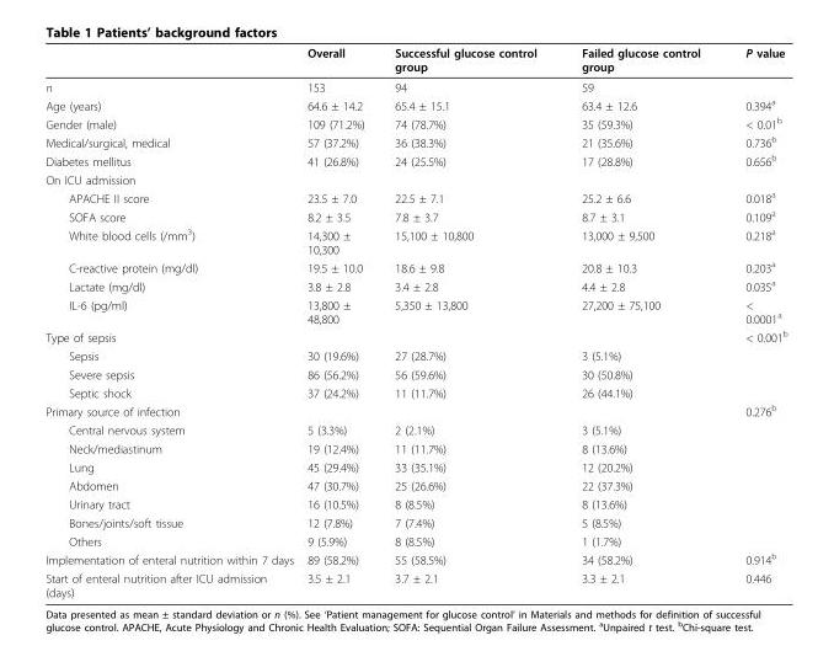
<table><thead><tr><td></td><td>Overall</td><td>Successful glucose control group</td><td>Failed glucose control group</td><td>P value</td></tr></thead><tbody><tr><td>n</td><td>153</td><td>94</td><td>59</td><td></td></tr><tr><td>Age (years)</td><td>64.6 ± 14.2</td><td>65.4 ± 15.1</td><td>63.4 ± 12.6</td><td>0.394<sup>a</sup></td></tr><tr><td>Gender (male)</td><td>109 (71.2%)</td><td>74 (78.7%)</td><td>35 (59.3%)</td><td>&lt; 0.01<sup>b</sup></td></tr><tr><td>Medical/surgical, medical</td><td>57 (37.2%)</td><td>36 (38.3%)</td><td>21 (35.6%)</td><td>0.736<sup>b</sup></td></tr><tr><td>Diabetes mellitus</td><td>41 (26.8%)</td><td>24 (25.5%)</td><td>17 (28.8%)</td><td>0.656<sup>b</sup></td></tr><tr><td colspan="5">On ICU admission</td></tr><tr><td>APACHE II score</td><td>23.5 ± 7.0</td><td>22.5 ± 7.1</td><td>25.2 ± 6.6</td><td>0.018<sup>a</sup></td></tr><tr><td>SOFA score</td><td>8.2 ± 3.5</td><td>7.8 ± 3.7</td><td>8.7 ± 3.1</td><td>0.109<sup>a</sup></td></tr><tr><td>White blood cells (/mm<sup>3</sup>)</td><td>14,300 ± 10,300</td><td>15,100 ± 10,800</td><td>13,000 ± 9,500</td><td>0.218<sup>a</sup></td></tr><tr><td>C-reactive protein (mg/dl)</td><td>19.5 ± 10.0</td><td>18.6 ± 9.8</td><td>20.8 ± 10.3</td><td>0.203<sup>a</sup></td></tr><tr><td>Lactate (mg/dl)</td><td>3.8 ± 2.8</td><td>3.4 ± 2.8</td><td>4.4 ± 2.8</td><td>0.035<sup>a</sup></td></tr><tr><td>IL-6 (pg/ml)</td><td>13,800 ± 48,800</td><td>5,350 ± 13,800</td><td>27,200 ± 75,100</td><td>&lt; 0.0001<sup>a</sup></td></tr><tr><td>Type of sepsis</td><td></td><td></td><td></td><td>&lt; 0.001<sup>b</sup></td></tr><tr><td>Sepsis</td><td>30 (19.6%)</td><td>27 (28.7%)</td><td>3 (5.1%)</td><td></td></tr><tr><td>Severe sepsis</td><td>86 (56.2%)</td><td>56 (59.6%)</td><td>30 (50.8%)</td><td></td></tr><tr><td>Septic shock</td><td>37 (24.2%)</td><td>11 (11.7%)</td><td>26 (44.1%)</td><td></td></tr><tr><td>Primary source of infection</td><td></td><td></td><td></td><td>0.276<sup>b</sup></td></tr><tr><td>Central nervous system</td><td>5 (3.3%)</td><td>2 (2.1%)</td><td>3 (5.1%)</td><td></td></tr><tr><td>Neck/mediastinum</td><td>19 (12.4%)</td><td>11 (11.7%)</td><td>8 (13.6%)</td><td></td></tr><tr><td>Lung</td><td>45 (29.4%)</td><td>33 (35.1%)</td><td>12 (20.2%)</td><td></td></tr><tr><td>Abdomen</td><td>47 (30.7%)</td><td>25 (26.6%)</td><td>22 (37.3%)</td><td></td></tr><tr><td>Urinary tract</td><td>16 (10.5%)</td><td>8 (8.5%)</td><td>8 (13.6%)</td><td></td></tr><tr><td>Bones/joints/soft tissue</td><td>12 (7.8%)</td><td>7 (7.4%)</td><td>5 (8.5%)</td><td></td></tr><tr><td>Others</td><td>9 (5.9%)</td><td>8 (8.5%)</td><td>1 (1.7%)</td><td></td></tr><tr><td>Implementation of enteral nutrition within 7 days</td><td>89 (58.2%)</td><td>55 (58.5%)</td><td>34 (58.2%)</td><td>0.914<sup>b</sup></td></tr><tr><td>Start of enteral nutrition after ICU admission (days)</td><td>3.5 ± 2.1</td><td>3.7 ± 2.1</td><td>3.3 ± 2.1</td><td>0.446</td></tr></tbody></table>